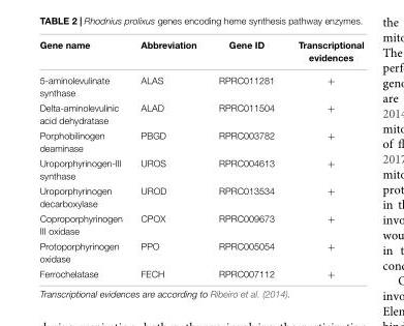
<table><thead><tr><td>Gene name</td><td>Abbreviation</td><td>Gene ID</td><td>Transcriptional evidences</td></tr></thead><tbody><tr><td>5-aminolevulinate synthase</td><td>ALAS</td><td>RPRC011281</td><td>+</td></tr><tr><td>Delta-aminolevulinic acid dehydratase</td><td>ALAD</td><td>RPRC011504</td><td>+</td></tr><tr><td>Porphobilinogen deaminase</td><td>PBGD</td><td>RPRC003782</td><td>+</td></tr><tr><td>Uroporphyrinogen-III synthase</td><td>UROS</td><td>RPRC004613</td><td>+</td></tr><tr><td>Uroporphyrinogen decarboxylase</td><td>UROD</td><td>RPRC013534</td><td>+</td></tr><tr><td>Coproporphyrinogen III oxidase</td><td>CPOX</td><td>RPRC009673</td><td>+</td></tr><tr><td>Protoporphyrinogen oxidase</td><td>PPO</td><td>RPRC005054</td><td>+</td></tr><tr><td>Ferrochelatase</td><td>FECH</td><td>RPRC007112</td><td>+</td></tr></tbody></table>